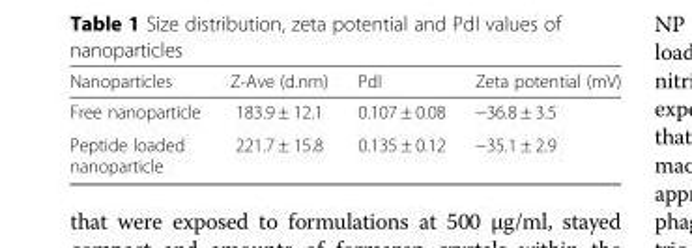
<table><thead><tr><td>Nanoparticles</td><td>Z-Ave (d.nm)</td><td>PdI</td><td>Zeta potential (mV)</td></tr></thead><tbody><tr><td>Free nanoparticle</td><td>183.9 ± 12.1</td><td>0.107 ± 0.08</td><td>−36.8 ± 3.5</td></tr><tr><td>Peptide loaded nanoparticle</td><td>221.7 ± 15.8</td><td>0.135 ± 0.12</td><td>−35.1 ± 2.9</td></tr></tbody></table>